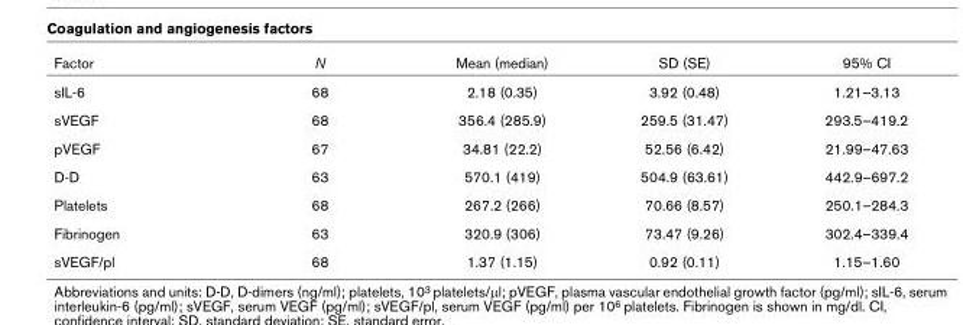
<table><thead><tr><td>Factor</td><td>N</td><td>Mean (median)</td><td>SD (SE)</td><td>95% CI</td></tr></thead><tbody><tr><td>sIL-6</td><td>68</td><td>2.18 (0.35)</td><td>3.92 (0.48)</td><td>1.21–3.13</td></tr><tr><td>sVEGF</td><td>68</td><td>356.4 (285.9)</td><td>259.5 (31.47)</td><td>293.5–419.2</td></tr><tr><td>pVEGF</td><td>67</td><td>34.81 (22.2)</td><td>52.56 (6.42)</td><td>21.99–47.63</td></tr><tr><td>D-D</td><td>63</td><td>570.1 (419)</td><td>504.9 (63.61)</td><td>442.9–697.2</td></tr><tr><td>Platelets</td><td>68</td><td>267.2 (266)</td><td>70.66 (8.57)</td><td>250.1–284.3</td></tr><tr><td>Fibrinogen</td><td>63</td><td>320.9 (306)</td><td>73.47 (9.26)</td><td>302.4–339.4</td></tr><tr><td>sVEGF/pl</td><td>68</td><td>1.37 (1.15)</td><td>0.92 (0.11)</td><td>1.15–1.60</td></tr></tbody></table>